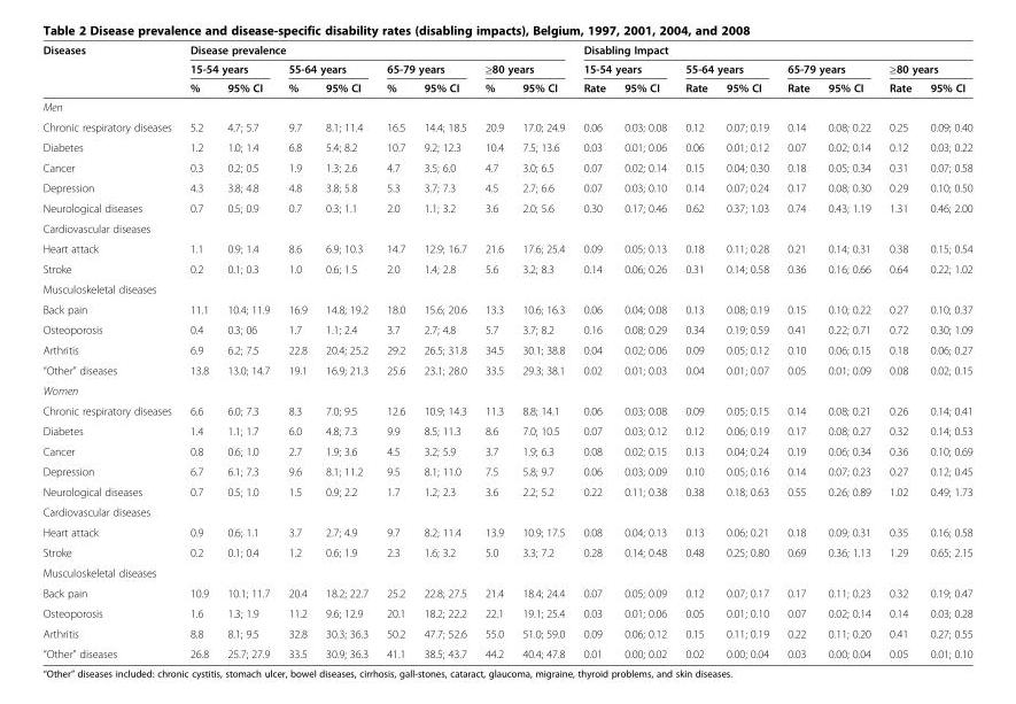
<table><thead><tr><td rowspan="3">Diseases</td><td colspan="8">Disease prevalence</td><td colspan="8">Disabling Impact</td></tr><tr><td colspan="2">15-54 years</td><td colspan="2">55-64 years</td><td colspan="2">65-79 years</td><td colspan="2">≥80 years</td><td colspan="2">15-54 years</td><td colspan="2">55-64 years</td><td colspan="2">65-79 years</td><td colspan="2">≥80 years</td></tr><tr><td>%</td><td>95% CI</td><td>%</td><td>95% CI</td><td>%</td><td>95% CI</td><td>%</td><td>95% CI</td><td>Rate</td><td>95% CI</td><td>Rate</td><td>95% CI</td><td>Rate</td><td>95% CI</td><td>Rate</td><td>95% CI</td></tr></thead><tbody><tr><td colspan="17">Men</td></tr><tr><td>Chronic respiratory diseases</td><td>5.2</td><td>4.7; 5.7</td><td>9.7</td><td>8.1; 11.4</td><td>16.5</td><td>14.4; 18.5</td><td>20.9</td><td>17.0; 24.9</td><td>0.06</td><td>0.03; 0.08</td><td>0.12</td><td>0.07; 0.19</td><td>0.14</td><td>0.08; 0.22</td><td>0.25</td><td>0.09; 0.40</td></tr><tr><td>Diabetes</td><td>1.2</td><td>1.0; 1.4</td><td>6.8</td><td>5.4; 8.2</td><td>10.7</td><td>9.2; 12.3</td><td>10.4</td><td>7.5; 13.6</td><td>0.03</td><td>0.01; 0.06</td><td>0.06</td><td>0.01; 0.12</td><td>0.07</td><td>0.02; 0.14</td><td>0.12</td><td>0.03; 0.22</td></tr><tr><td>Cancer</td><td>0.3</td><td>0.2; 0.5</td><td>1.9</td><td>1.3; 2.6</td><td>4.7</td><td>3.5; 6.0</td><td>4.7</td><td>3.0; 6.5</td><td>0.07</td><td>0.02; 0.14</td><td>0.15</td><td>0.04; 0.30</td><td>0.18</td><td>0.05; 0.34</td><td>0.31</td><td>0.07; 0.58</td></tr><tr><td>Depression</td><td>4.3</td><td>3.8; 4.8</td><td>4.8</td><td>3.8; 5.8</td><td>5.3</td><td>3.7; 7.3</td><td>4.5</td><td>2.7; 6.6</td><td>0.07</td><td>0.03; 0.10</td><td>0.14</td><td>0.07; 0.24</td><td>0.17</td><td>0.08; 0.30</td><td>0.29</td><td>0.10; 0.50</td></tr><tr><td>Neurological diseases</td><td>0.7</td><td>0.5; 0.9</td><td>0.7</td><td>0.3; 1.1</td><td>2.0</td><td>1.1; 3.2</td><td>3.6</td><td>2.0; 5.6</td><td>0.30</td><td>0.17; 0.46</td><td>0.62</td><td>0.37; 1.03</td><td>0.74</td><td>0.43; 1.19</td><td>1.31</td><td>0.46; 2.00</td></tr><tr><td colspan="17">Cardiovascular diseases</td></tr><tr><td>Heart attack</td><td>1.1</td><td>0.9; 1.4</td><td>8.6</td><td>6.9; 10.3</td><td>14.7</td><td>12.9; 16.7</td><td>21.6</td><td>17.6; 25.4</td><td>0.09</td><td>0.05; 0.13</td><td>0.18</td><td>0.11; 0.28</td><td>0.21</td><td>0.14; 0.31</td><td>0.38</td><td>0.15; 0.54</td></tr><tr><td>Stroke</td><td>0.2</td><td>0.1; 0.3</td><td>1.0</td><td>0.6; 1.5</td><td>2.0</td><td>1.4; 2.8</td><td>5.6</td><td>3.2; 8.3</td><td>0.14</td><td>0.06; 0.26</td><td>0.31</td><td>0.14; 0.58</td><td>0.36</td><td>0.16; 0.66</td><td>0.64</td><td>0.22; 1.02</td></tr><tr><td colspan="17">Musculoskeletal diseases</td></tr><tr><td>Back pain</td><td>11.1</td><td>10.4; 11.9</td><td>16.9</td><td>14.8; 19.2</td><td>18.0</td><td>15.6; 20.6</td><td>13.3</td><td>10.6; 16.3</td><td>0.06</td><td>0.04; 0.08</td><td>0.13</td><td>0.08; 0.19</td><td>0.15</td><td>0.10; 0.22</td><td>0.27</td><td>0.10; 0.37</td></tr><tr><td>Osteoporosis</td><td>0.4</td><td>0.3; 06</td><td>1.7</td><td>1.1; 2.4</td><td>3.7</td><td>2.7; 4.8</td><td>5.7</td><td>3.7; 8.2</td><td>0.16</td><td>0.08; 0.29</td><td>0.34</td><td>0.19; 0.59</td><td>0.41</td><td>0.22; 0.71</td><td>0.72</td><td>0.30; 1.09</td></tr><tr><td>Arthritis</td><td>6.9</td><td>6.2; 7.5</td><td>22.8</td><td>20.4; 25.2</td><td>29.2</td><td>26.5; 31.8</td><td>34.5</td><td>30.1; 38.8</td><td>0.04</td><td>0.02; 0.06</td><td>0.09</td><td>0.05; 0.12</td><td>0.10</td><td>0.06; 0.15</td><td>0.18</td><td>0.06; 0.27</td></tr><tr><td>“Other” diseases</td><td>13.8</td><td>13.0; 14.7</td><td>19.1</td><td>16.9; 21.3</td><td>25.6</td><td>23.1; 28.0</td><td>33.5</td><td>29.3; 38.1</td><td>0.02</td><td>0.01; 0.03</td><td>0.04</td><td>0.01; 0.07</td><td>0.05</td><td>0.01; 0.09</td><td>0.08</td><td>0.02; 0.15</td></tr><tr><td colspan="17">Women</td></tr><tr><td>Chronic respiratory diseases</td><td>6.6</td><td>6.0; 7.3</td><td>8.3</td><td>7.0; 9.5</td><td>12.6</td><td>10.9; 14.3</td><td>11.3</td><td>8.8; 14.1</td><td>0.06</td><td>0.03; 0.08</td><td>0.09</td><td>0.05; 0.15</td><td>0.14</td><td>0.08; 0.21</td><td>0.26</td><td>0.14; 0.41</td></tr><tr><td>Diabetes</td><td>1.4</td><td>1.1; 1.7</td><td>6.0</td><td>4.8; 7.3</td><td>9.9</td><td>8.5; 11.3</td><td>8.6</td><td>7.0; 10.5</td><td>0.07</td><td>0.03; 0.12</td><td>0.12</td><td>0.06; 0.19</td><td>0.17</td><td>0.08; 0.27</td><td>0.32</td><td>0.14; 0.53</td></tr><tr><td>Cancer</td><td>0.8</td><td>0.6; 1.0</td><td>2.7</td><td>1.9; 3.6</td><td>4.5</td><td>3.2; 5.9</td><td>3.7</td><td>1.9; 6.3</td><td>0.08</td><td>0.02; 0.15</td><td>0.13</td><td>0.04; 0.24</td><td>0.19</td><td>0.06; 0.34</td><td>0.36</td><td>0.10; 0.69</td></tr><tr><td>Depression</td><td>6.7</td><td>6.1; 7.3</td><td>9.6</td><td>8.1; 11.2</td><td>9.5</td><td>8.1; 11.0</td><td>7.5</td><td>5.8; 9.7</td><td>0.06</td><td>0.03; 0.09</td><td>0.10</td><td>0.05; 0.16</td><td>0.14</td><td>0.07; 0.23</td><td>0.27</td><td>0.12; 0.45</td></tr><tr><td>Neurological diseases</td><td>0.7</td><td>0.5; 1.0</td><td>1.5</td><td>0.9; 2.2</td><td>1.7</td><td>1.2; 2.3</td><td>3.6</td><td>2.2; 5.2</td><td>0.22</td><td>0.11; 0.38</td><td>0.38</td><td>0.18; 0.63</td><td>0.55</td><td>0.26; 0.89</td><td>1.02</td><td>0.49; 1.73</td></tr><tr><td colspan="17">Cardiovascular diseases</td></tr><tr><td>Heart attack</td><td>0.9</td><td>0.6; 1.1</td><td>3.7</td><td>2.7; 4.9</td><td>9.7</td><td>8.2; 11.4</td><td>13.9</td><td>10.9; 17.5</td><td>0.08</td><td>0.04; 0.13</td><td>0.13</td><td>0.06; 0.21</td><td>0.18</td><td>0.09; 0.31</td><td>0.35</td><td>0.16; 0.58</td></tr><tr><td>Stroke</td><td>0.2</td><td>0.1; 0.4</td><td>1.2</td><td>0.6; 1.9</td><td>2.3</td><td>1.6; 3.2</td><td>5.0</td><td>3.3; 7.2</td><td>0.28</td><td>0.14; 0.48</td><td>0.48</td><td>0.25; 0.80</td><td>0.69</td><td>0.36; 1.13</td><td>1.29</td><td>0.65; 2.15</td></tr><tr><td colspan="17">Musculoskeletal diseases</td></tr><tr><td>Back pain</td><td>10.9</td><td>10.1; 11.7</td><td>20.4</td><td>18.2; 22.7</td><td>25.2</td><td>22.8; 27.5</td><td>21.4</td><td>18.4; 24.4</td><td>0.07</td><td>0.05; 0.09</td><td>0.12</td><td>0.07; 0.17</td><td>0.17</td><td>0.11; 0.23</td><td>0.32</td><td>0.19; 0.47</td></tr><tr><td>Osteoporosis</td><td>1.6</td><td>1.3; 1.9</td><td>11.2</td><td>9.6; 12.9</td><td>20.1</td><td>18.2; 22.2</td><td>22.1</td><td>19.1; 25.4</td><td>0.03</td><td>0.01; 0.06</td><td>0.05</td><td>0.01; 0.10</td><td>0.07</td><td>0.02; 0.14</td><td>0.14</td><td>0.03; 0.28</td></tr><tr><td>Arthritis</td><td>8.8</td><td>8.1; 9.5</td><td>32.8</td><td>30.3; 36.3</td><td>50.2</td><td>47.7; 52.6</td><td>55.0</td><td>51.0; 59.0</td><td>0.09</td><td>0.06; 0.12</td><td>0.15</td><td>0.11; 0.19</td><td>0.22</td><td>0.11; 0.20</td><td>0.41</td><td>0.27; 0.55</td></tr><tr><td>“Other” diseases</td><td>26.8</td><td>25.7; 27.9</td><td>33.5</td><td>30.9; 36.3</td><td>41.1</td><td>38.5; 43.7</td><td>44.2</td><td>40.4; 47.8</td><td>0.01</td><td>0.00; 0.02</td><td>0.02</td><td>0.00; 0.04</td><td>0.03</td><td>0.00; 0.04</td><td>0.05</td><td>0.01; 0.10</td></tr></tbody></table>